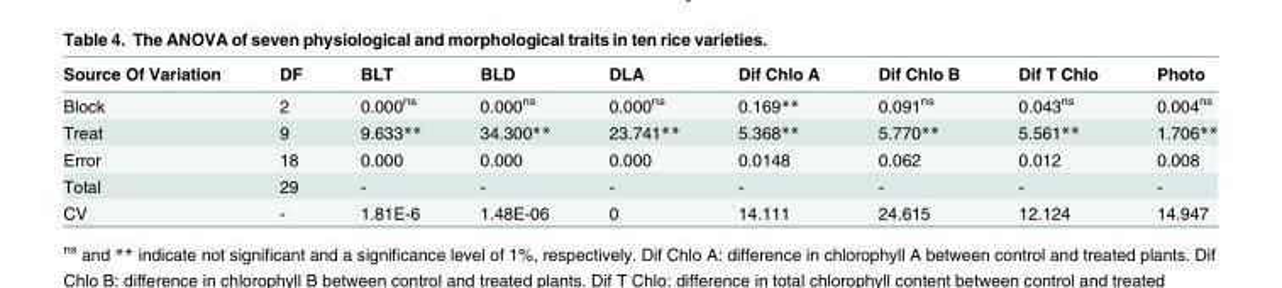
<table><thead><tr><td>Source Of Variation</td><td>DF</td><td>BLT</td><td>BLD</td><td>DLA</td><td>Dif Chlo A</td><td>Dif Chlo B</td><td>Dif T Chlo</td><td>Photo</td></tr></thead><tbody><tr><td>Block</td><td>2</td><td>0.000<sup>ns</sup></td><td>0.000<sup>ns</sup></td><td>0.000<sup>ns</sup></td><td>0.169**</td><td>0.091<sup>ns</sup></td><td>0.043<sup>ns</sup></td><td>0.004<sup>ns</sup></td></tr><tr><td>Treat</td><td>9</td><td>9.633**</td><td>34.300**</td><td>23.741**</td><td>5.368**</td><td>5.770**</td><td>5.561**</td><td>1.706**</td></tr><tr><td>Error</td><td>18</td><td>0.000</td><td>0.000</td><td>0.000</td><td>0.0148</td><td>0.062</td><td>0.012</td><td>0.008</td></tr><tr><td>Total</td><td>29</td><td>-</td><td>-</td><td>-</td><td>-</td><td>-</td><td>-</td><td>-</td></tr><tr><td>CV</td><td>-</td><td>1.81E-6</td><td>1.48E-06</td><td>0</td><td>14.111</td><td>24.615</td><td>12.124</td><td>14.947</td></tr></tbody></table>